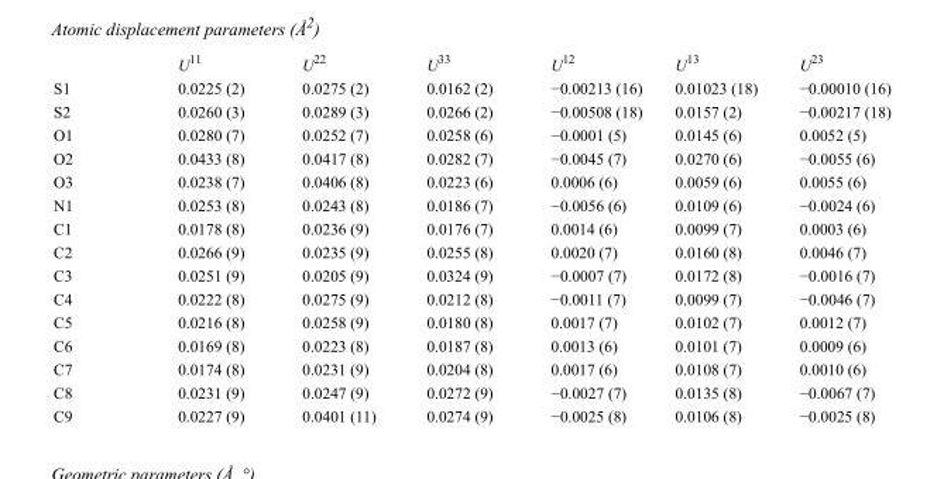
<table><thead><tr><td></td><td>U<sup>11</sup></td><td>U<sup>22</sup></td><td>U<sup>33</sup></td><td>U<sup>12</sup></td><td>U<sup>13</sup></td><td>U<sup>23</sup></td></tr></thead><tbody><tr><td>S1</td><td>0.0225 (2)</td><td>0.0275 (2)</td><td>0.0162 (2)</td><td>−0.00213 (16)</td><td>0.01023 (18)</td><td>−0.00010 (16)</td></tr><tr><td>S2</td><td>0.0260 (3)</td><td>0.0289 (3)</td><td>0.0266 (2)</td><td>−0.00508 (18)</td><td>0.0157 (2)</td><td>−0.00217 (18)</td></tr><tr><td>O1</td><td>0.0280 (7)</td><td>0.0252 (7)</td><td>0.0258 (6)</td><td>−0.0001 (5)</td><td>0.0145 (6)</td><td>0.0052 (5)</td></tr><tr><td>O2</td><td>0.0433 (8)</td><td>0.0417 (8)</td><td>0.0282 (7)</td><td>−0.0045 (7)</td><td>0.0270 (6)</td><td>−0.0055 (6)</td></tr><tr><td>O3</td><td>0.0238 (7)</td><td>0.0406 (8)</td><td>0.0223 (6)</td><td>0.0006 (6)</td><td>0.0059 (6)</td><td>0.0055 (6)</td></tr><tr><td>N1</td><td>0.0253 (8)</td><td>0.0243 (8)</td><td>0.0186 (7)</td><td>−0.0056 (6)</td><td>0.0109 (6)</td><td>−0.0024 (6)</td></tr><tr><td>C1</td><td>0.0178 (8)</td><td>0.0236 (9)</td><td>0.0176 (7)</td><td>0.0014 (6)</td><td>0.0099 (7)</td><td>0.0003 (6)</td></tr><tr><td>C2</td><td>0.0266 (9)</td><td>0.0235 (9)</td><td>0.0255 (8)</td><td>0.0020 (7)</td><td>0.0160 (8)</td><td>0.0046 (7)</td></tr><tr><td>C3</td><td>0.0251 (9)</td><td>0.0205 (9)</td><td>0.0324 (9)</td><td>−0.0007 (7)</td><td>0.0172 (8)</td><td>−0.0016 (7)</td></tr><tr><td>C4</td><td>0.0222 (8)</td><td>0.0275 (9)</td><td>0.0212 (8)</td><td>−0.0011 (7)</td><td>0.0099 (7)</td><td>−0.0046 (7)</td></tr><tr><td>C5</td><td>0.0216 (8)</td><td>0.0258 (9)</td><td>0.0180 (8)</td><td>0.0017 (7)</td><td>0.0102 (7)</td><td>0.0012 (7)</td></tr><tr><td>C6</td><td>0.0169 (8)</td><td>0.0223 (8)</td><td>0.0187 (8)</td><td>0.0013 (6)</td><td>0.0101 (7)</td><td>0.0009 (6)</td></tr><tr><td>C7</td><td>0.0174 (8)</td><td>0.0231 (9)</td><td>0.0204 (8)</td><td>0.0017 (6)</td><td>0.0108 (7)</td><td>0.0010 (6)</td></tr><tr><td>C8</td><td>0.0231 (9)</td><td>0.0247 (9)</td><td>0.0272 (9)</td><td>−0.0027 (7)</td><td>0.0135 (8)</td><td>−0.0067 (7)</td></tr><tr><td>C9</td><td>0.0227 (9)</td><td>0.0401 (11)</td><td>0.0274 (9)</td><td>−0.0025 (8)</td><td>0.0106 (8)</td><td>−0.0025 (8)</td></tr></tbody></table>